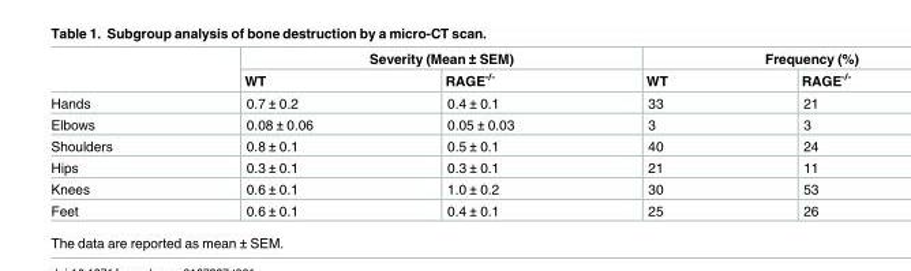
<table><thead><tr><td rowspan="2"></td><td colspan="2">Severity (Mean ± SEM)</td><td colspan="2">Frequency (%)</td></tr><tr><td>WT</td><td>RAGE<sup>-/-</sup></td><td>WT</td><td>RAGE<sup>-/-</sup></td></tr></thead><tbody><tr><td>Hands</td><td>0.7 ± 0.2</td><td>0.4 ± 0.1</td><td>33</td><td>21</td></tr><tr><td>Elbows</td><td>0.08 ± 0.06</td><td>0.05 ± 0.03</td><td>3</td><td>3</td></tr><tr><td>Shoulders</td><td>0.8 ± 0.1</td><td>0.5 ± 0.1</td><td>40</td><td>24</td></tr><tr><td>Hips</td><td>0.3 ± 0.1</td><td>0.3 ± 0.1</td><td>21</td><td>11</td></tr><tr><td>Knees</td><td>0.6 ± 0.1</td><td>1.0 ± 0.2</td><td>30</td><td>53</td></tr><tr><td>Feet</td><td>0.6 ± 0.1</td><td>0.4 ± 0.1</td><td>25</td><td>26</td></tr></tbody></table>